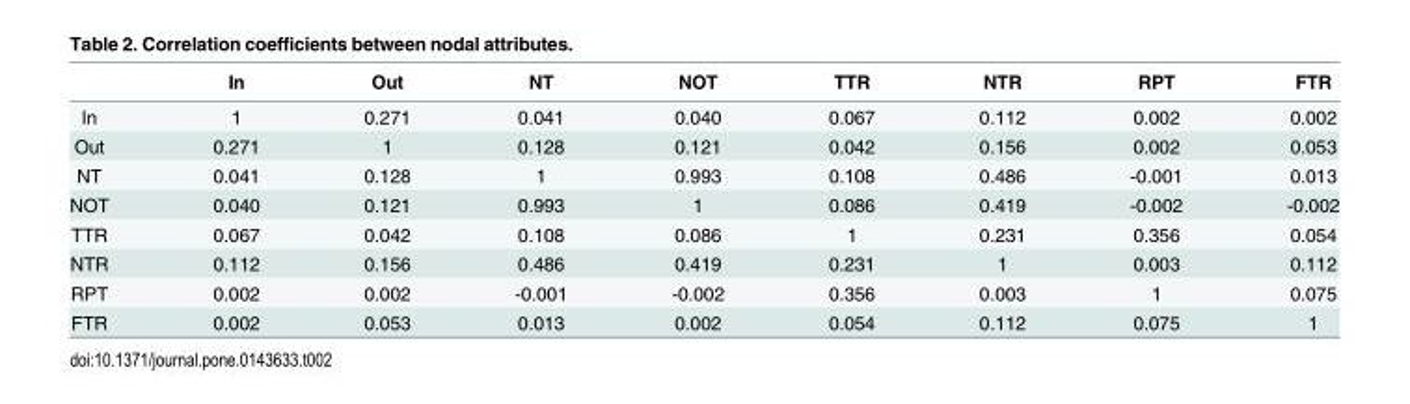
<table><thead><tr><td></td><td>In</td><td>Out</td><td>NT</td><td>NOT</td><td>TTR</td><td>NTR</td><td>RPT</td><td>FTR</td></tr></thead><tbody><tr><td>In</td><td>1</td><td>0.271</td><td>0.041</td><td>0.040</td><td>0.067</td><td>0.112</td><td>0.002</td><td>0.002</td></tr><tr><td>Out</td><td>0.271</td><td>1</td><td>0.128</td><td>0.121</td><td>0.042</td><td>0.156</td><td>0.002</td><td>0.053</td></tr><tr><td>NT</td><td>0.041</td><td>0.128</td><td>1</td><td>0.993</td><td>0.108</td><td>0.486</td><td>-0.001</td><td>0.013</td></tr><tr><td>NOT</td><td>0.040</td><td>0.121</td><td>0.993</td><td>1</td><td>0.086</td><td>0.419</td><td>-0.002</td><td>-0.002</td></tr><tr><td>TTR</td><td>0.067</td><td>0.042</td><td>0.108</td><td>0.086</td><td>1</td><td>0.231</td><td>0.356</td><td>0.054</td></tr><tr><td>NTR</td><td>0.112</td><td>0.156</td><td>0.486</td><td>0.419</td><td>0.231</td><td>1</td><td>0.003</td><td>0.112</td></tr><tr><td>RPT</td><td>0.002</td><td>0.002</td><td>-0.001</td><td>-0.002</td><td>0.356</td><td>0.003</td><td>1</td><td>0.075</td></tr><tr><td>FTR</td><td>0.002</td><td>0.053</td><td>0.013</td><td>0.002</td><td>0.054</td><td>0.112</td><td>0.075</td><td>1</td></tr></tbody></table>